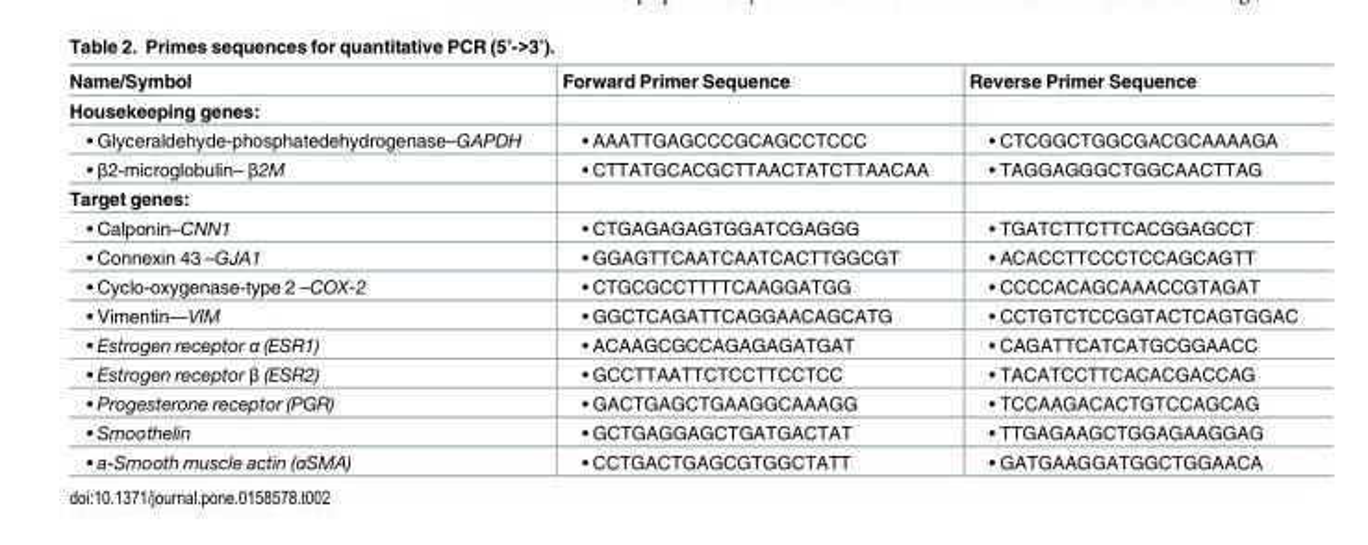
<table><thead><tr><td>Name/Symbol</td><td>Forward Primer Sequence</td><td>Reverse Primer Sequence</td></tr></thead><tbody><tr><td colspan="3">Housekeeping genes:</td></tr><tr><td>• Glyceraldehyde-phosphatedehydrogenase–GAPDH</td><td>• AAATTGAGCCCGCAGCCTCCC</td><td>• CTCGGCTGGCGACGCAAAAGA</td></tr><tr><td>• β2-microglobulin– β2M</td><td>• CTTATGCACGCTTAACTATCTTAACAA</td><td>• TAGGAGGGCTGGCAACTTAG</td></tr><tr><td colspan="3">Target genes:</td></tr><tr><td>• Calponin–CNN1</td><td>• CTGAGAGAGTGGATCGAGGG</td><td>• TGATCTTCTTCACGGAGCCT</td></tr><tr><td>• Connexin 43 –GJA1</td><td>• GGAGTTCAATCAATCACTTGGCGT</td><td>• ACACCTTCCCTCCAGCAGTT</td></tr><tr><td>• Cyclo-oxygenase-type 2 –COX-2</td><td>• CTGCGCCTTTTCAAGGATGG</td><td>• CCCCACAGCAAACCGTAGAT</td></tr><tr><td>• Vimentin—VIM</td><td>• GGCTCAGATTCAGGAACAGCATG</td><td>• CCTGTCTCCGGTACTCAGTGGAC</td></tr><tr><td>• Estrogen receptor α (ESR1)</td><td>• ACAAGCGCCAGAGAGATGAT</td><td>• CAGATTCATCATGCGGAACC</td></tr><tr><td>• Estrogen receptor β (ESR2)</td><td>• GCCTTAATTCTCCTTCCTCC</td><td>• TACATCCTTCACACGACCAG</td></tr><tr><td>• Progesterone receptor (PGR)</td><td>• GACTGAGCTGAAGGCAAAGG</td><td>• TCCAAGACACTGTCCAGCAG</td></tr><tr><td>• Smoothelin</td><td>• GCTGAGGAGCTGATGACTAT</td><td>• TTGAGAAGCTGGAGAAGGAG</td></tr><tr><td>• a-Smooth muscle actin (αSMA)</td><td>• CCTGACTGAGCGTGGCTATT</td><td>• GATGAAGGATGGCTGGAACA</td></tr></tbody></table>